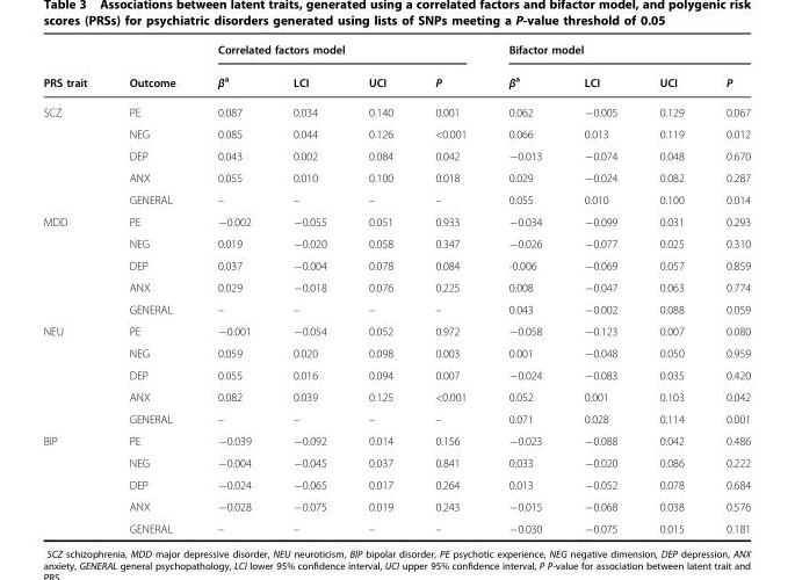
<table><thead><tr><td rowspan="2">PRS trait</td><td rowspan="2">Outcome</td><td colspan="4">Correlated factors model</td><td colspan="4">Bifactor model</td></tr><tr><td>β<sup>a</sup></td><td>LCI</td><td>UCI</td><td>P</td><td>β<sup>a</sup></td><td>LCI</td><td>UCI</td><td>P</td></tr></thead><tbody><tr><td rowspan="5">SCZ</td><td>PE</td><td>0.087</td><td>0.034</td><td>0.140</td><td>0.001</td><td>0.062</td><td>−0.005</td><td>0.129</td><td>0.067</td></tr><tr><td>NEG</td><td>0.085</td><td>0.044</td><td>0.126</td><td>&lt;0.001</td><td>0.066</td><td>0.013</td><td>0.119</td><td>0.012</td></tr><tr><td>DEP</td><td>0.043</td><td>0.002</td><td>0.084</td><td>0.042</td><td>−0.013</td><td>−0.074</td><td>0.048</td><td>0.670</td></tr><tr><td>ANX</td><td>0.055</td><td>0.010</td><td>0.100</td><td>0.018</td><td>0.029</td><td>−0.024</td><td>0.082</td><td>0.287</td></tr><tr><td>GENERAL</td><td>–</td><td>–</td><td>–</td><td>–</td><td>0.055</td><td>0.010</td><td>0.100</td><td>0.014</td></tr><tr><td rowspan="5">MDD</td><td>PE</td><td>−0.002</td><td>−0.055</td><td>0.051</td><td>0.933</td><td>−0.034</td><td>−0.099</td><td>0.031</td><td>0.293</td></tr><tr><td>NEG</td><td>0.019</td><td>−0.020</td><td>0.058</td><td>0.347</td><td>−0.026</td><td>−0.077</td><td>0.025</td><td>0.310</td></tr><tr><td>DEP</td><td>0.037</td><td>−0.004</td><td>0.078</td><td>0.084</td><td>-0.006</td><td>−0.069</td><td>0.057</td><td>0.859</td></tr><tr><td>ANX</td><td>0.029</td><td>−0.018</td><td>0.076</td><td>0.225</td><td>0.008</td><td>−0.047</td><td>0.063</td><td>0.774</td></tr><tr><td>GENERAL</td><td>–</td><td>–</td><td>–</td><td>–</td><td>0.043</td><td>−0.002</td><td>0.088</td><td>0.059</td></tr><tr><td rowspan="5">NEU</td><td>PE</td><td>−0.001</td><td>−0.054</td><td>0.052</td><td>0.972</td><td>−0.058</td><td>−0.123</td><td>0.007</td><td>0.080</td></tr><tr><td>NEG</td><td>0.059</td><td>0.020</td><td>0.098</td><td>0.003</td><td>0.001</td><td>−0.048</td><td>0.050</td><td>0.959</td></tr><tr><td>DEP</td><td>0.055</td><td>0.016</td><td>0.094</td><td>0.007</td><td>−0.024</td><td>−0.083</td><td>0.035</td><td>0.420</td></tr><tr><td>ANX</td><td>0.082</td><td>0.039</td><td>0.125</td><td>&lt;0.001</td><td>0.052</td><td>0.001</td><td>0.103</td><td>0.042</td></tr><tr><td>GENERAL</td><td>–</td><td>–</td><td>–</td><td>–</td><td>0.071</td><td>0.028</td><td>0.114</td><td>0.001</td></tr><tr><td rowspan="5">BIP</td><td>PE</td><td>−0.039</td><td>−0.092</td><td>0.014</td><td>0.156</td><td>−0.023</td><td>−0.088</td><td>0.042</td><td>0.486</td></tr><tr><td>NEG</td><td>−0.004</td><td>−0.045</td><td>0.037</td><td>0.841</td><td>0.033</td><td>−0.020</td><td>0.086</td><td>0.222</td></tr><tr><td>DEP</td><td>−0.024</td><td>−0.065</td><td>0.017</td><td>0.264</td><td>0.013</td><td>−0.052</td><td>0.078</td><td>0.684</td></tr><tr><td>ANX</td><td>−0.028</td><td>−0.075</td><td>0.019</td><td>0.243</td><td>−0.015</td><td>−0.068</td><td>0.038</td><td>0.576</td></tr><tr><td>GENERAL</td><td>–</td><td>–</td><td>–</td><td>–</td><td>−0.030</td><td>−0.075</td><td>0.015</td><td>0.181</td></tr></tbody></table>